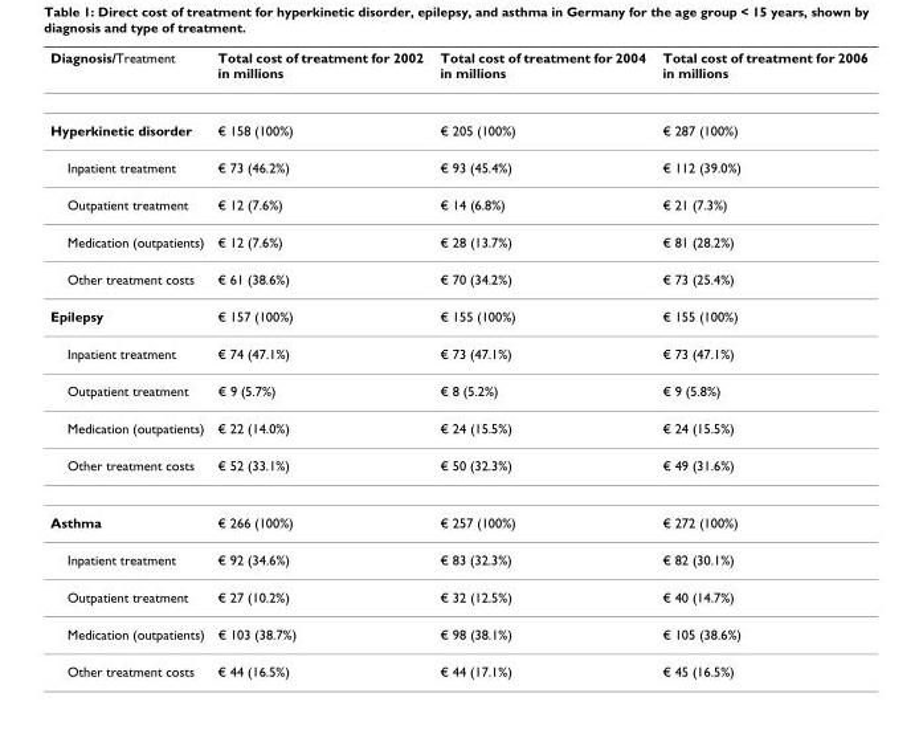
<table><thead><tr><td>Diagnosis/Treatment</td><td>Total cost of treatment for 2002 in millions</td><td>Total cost of treatment for 2004 in millions</td><td>Total cost of treatment for 2006 in millions</td></tr></thead><tbody><tr><td>Hyperkinetic disorder</td><td>€ 158 (100%)</td><td>€ 205 (100%)</td><td>€ 287 (100%)</td></tr><tr><td>Inpatient treatment</td><td>€ 73 (46.2%)</td><td>€ 93 (45.4%)</td><td>€ 112 (39.0%)</td></tr><tr><td>Outpatient treatment</td><td>€ 12 (7.6%)</td><td>€ 14 (6.8%)</td><td>€ 21 (7.3%)</td></tr><tr><td>Medication (outpatients)</td><td>€ 12 (7.6%)</td><td>€ 28 (13.7%)</td><td>€ 81 (28.2%)</td></tr><tr><td>Other treatment costs</td><td>€ 61 (38.6%)</td><td>€ 70 (34.2%)</td><td>€ 73 (25.4%)</td></tr><tr><td>Epilepsy</td><td>€ 157 (100%)</td><td>€ 155 (100%)</td><td>€ 155 (100%)</td></tr><tr><td>Inpatient treatment</td><td>€ 74 (47.1%)</td><td>€ 73 (47.1%)</td><td>€ 73 (47.1%)</td></tr><tr><td>Outpatient treatment</td><td>€ 9 (5.7%)</td><td>€ 8 (5.2%)</td><td>€ 9 (5.8%)</td></tr><tr><td>Medication (outpatients)</td><td>€ 22 (14.0%)</td><td>€ 24 (15.5%)</td><td>€ 24 (15.5%)</td></tr><tr><td>Other treatment costs</td><td>€ 52 (33.1%)</td><td>€ 50 (32.3%)</td><td>€ 49 (31.6%)</td></tr><tr><td>Asthma</td><td>€ 266 (100%)</td><td>€ 257 (100%)</td><td>€ 272 (100%)</td></tr><tr><td>Inpatient treatment</td><td>€ 92 (34.6%)</td><td>€ 83 (32.3%)</td><td>€ 82 (30.1%)</td></tr><tr><td>Outpatient treatment</td><td>€ 27 (10.2%)</td><td>€ 32 (12.5%)</td><td>€ 40 (14.7%)</td></tr><tr><td>Medication (outpatients)</td><td>€ 103 (38.7%)</td><td>€ 98 (38.1%)</td><td>€ 105 (38.6%)</td></tr><tr><td>Other treatment costs</td><td>€ 44 (16.5%)</td><td>€ 44 (17.1%)</td><td>€ 45 (16.5%)</td></tr></tbody></table>